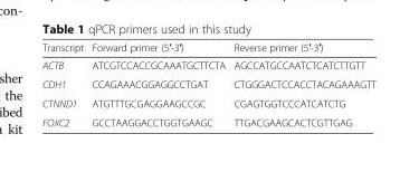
<table><thead><tr><td>Transcript</td><td>Forward primer (5′-3′)</td><td>Reverse primer (5′-3′)</td></tr></thead><tbody><tr><td>ACTB</td><td>ATCGTCCACCGCAAATGCTTCTA</td><td>AGCCATGCCAATCTCATCTTGTT</td></tr><tr><td>CDH1</td><td>CCAGAAACGGAGGCCTGAT</td><td>CTGGGACTCCACCTACAGAAAGTT</td></tr><tr><td>CTNND1</td><td>ATGTTTGCGAGGAAGCCGC</td><td>CGAGTGGTCCCATCATCTG</td></tr><tr><td>FOXC2</td><td>GCCTAAGGACCTGGTGAAGC</td><td>TTGACGAAGCACTCGTTGAG</td></tr></tbody></table>